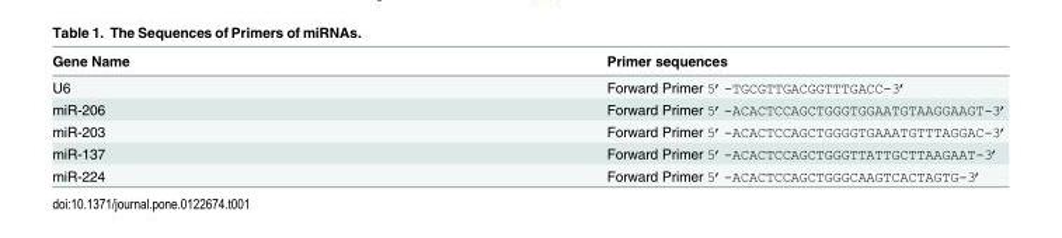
<table><thead><tr><td>Gene Name</td><td>Primer sequences</td></tr></thead><tbody><tr><td>U6</td><td>Forward Primer 5’-TGCGTTGACGGTTTGACC-3’</td></tr><tr><td>miR-206</td><td>Forward Primer 5’-ACACTCCAGCTGGGTGGAATGTAAGGAAGT-3’</td></tr><tr><td>miR-203</td><td>Forward Primer 5’-ACACTCCAGCTGGGGTGAAATGTTTAGGAC-3’</td></tr><tr><td>miR-137</td><td>Forward Primer 5’-ACACTCCAGCTGGGTTATTGCTTAAGAAT-3’</td></tr><tr><td>miR-224</td><td>Forward Primer 5’-ACACTCCAGCTGGGCAAGTCACTAGTG-3’</td></tr></tbody></table>